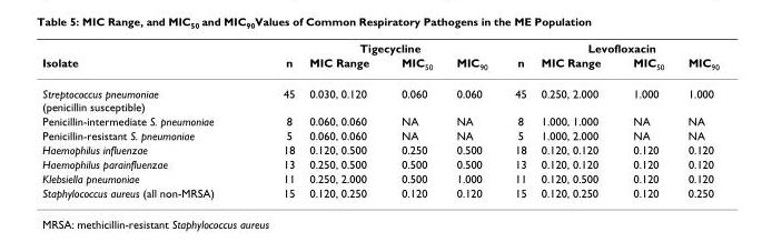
<table><thead><tr><td rowspan="2">Isolate</td><td colspan="4">Tigecycline</td><td colspan="4">Levofloxacin</td></tr><tr><td>n</td><td>MIC Range</td><td>MIC<sub>50</sub></td><td>MIC<sub>90</sub></td><td>n</td><td>MIC Range</td><td>MIC<sub>50</sub></td><td>MIC<sub>90</sub></td></tr></thead><tbody><tr><td>Streptococcus pneumoniae (penicillin susceptible)</td><td>45</td><td>0.030, 0.120</td><td>0.060</td><td>0.060</td><td>45</td><td>0.250, 2.000</td><td>1.000</td><td>1.000</td></tr><tr><td>Penicillin-intermediate S. pneumoniae</td><td>8</td><td>0.060, 0.060</td><td>NA</td><td>NA</td><td>8</td><td>1.000, 1.000</td><td>NA</td><td>NA</td></tr><tr><td>Penicillin-resistant S. pneumoniae</td><td>5</td><td>0.060, 0.060</td><td>NA</td><td>NA</td><td>5</td><td>1.000, 2.000</td><td>NA</td><td>NA</td></tr><tr><td>Haemophilus influenzae</td><td>18</td><td>0.120, 0.500</td><td>0.250</td><td>0.500</td><td>18</td><td>0.120, 0.120</td><td>0.120</td><td>0.120</td></tr><tr><td>Haemophilus parainfluenzae</td><td>13</td><td>0.250, 0.500</td><td>0.500</td><td>0.500</td><td>13</td><td>0.120, 0.120</td><td>0.120</td><td>0.120</td></tr><tr><td>Klebsiella pneumoniae</td><td>11</td><td>0.250, 2.000</td><td>0.500</td><td>1.000</td><td>11</td><td>0.120, 0.500</td><td>0.120</td><td>0.120</td></tr><tr><td>Staphylococcus aureus (all non-MRSA)</td><td>15</td><td>0.120, 0.250</td><td>0.120</td><td>0.120</td><td>15</td><td>0.120, 0.250</td><td>0.120</td><td>0.250</td></tr></tbody></table>